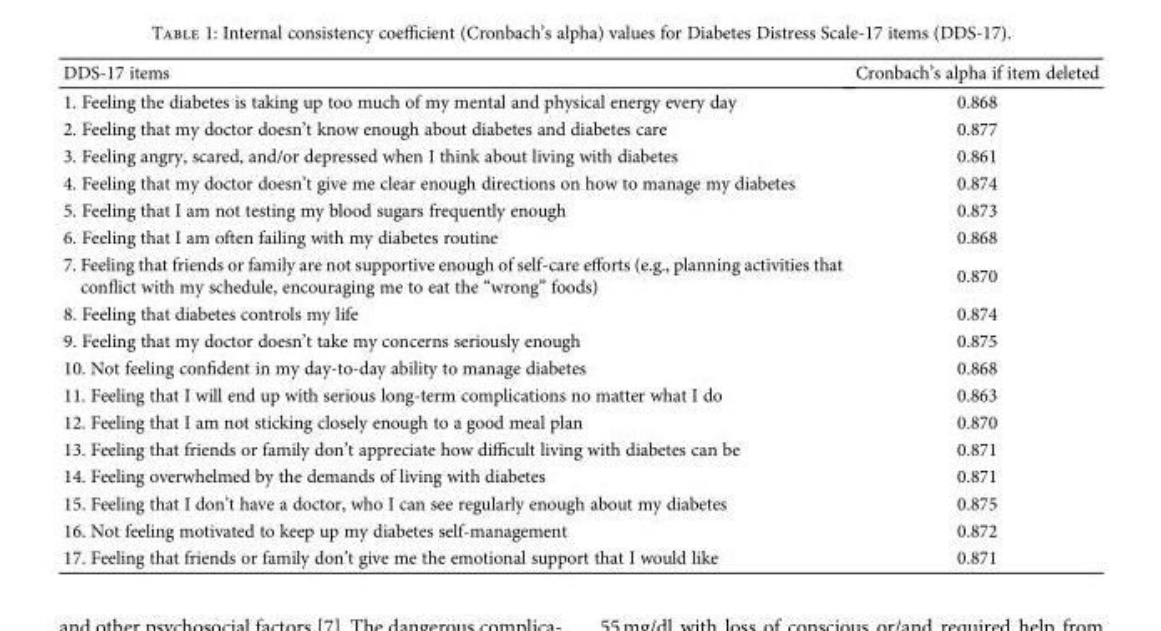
<table><thead><tr><td>DDS-17 items</td><td>Cronbach’s alpha if item deleted</td></tr></thead><tbody><tr><td>1. Feeling the diabetes is taking up too much of my mental and physical energy every day</td><td>0.868</td></tr><tr><td>2. Feeling that my doctor doesn’t know enough about diabetes and diabetes care</td><td>0.877</td></tr><tr><td>3. Feeling angry, scared, and/or depressed when I think about living with diabetes</td><td>0.861</td></tr><tr><td>4. Feeling that my doctor doesn’t give me clear enough directions on how to manage my diabetes</td><td>0.874</td></tr><tr><td>5. Feeling that I am not testing my blood sugars frequently enough</td><td>0.873</td></tr><tr><td>6. Feeling that I am often failing with my diabetes routine</td><td>0.868</td></tr><tr><td>7. Feeling that friends or family are not supportive enough of self-care efforts (e.g., planning activities that conflict with my schedule, encouraging me to eat the “wrong” foods)</td><td>0.870</td></tr><tr><td>8. Feeling that diabetes controls my life</td><td>0.874</td></tr><tr><td>9. Feeling that my doctor doesn’t take my concerns seriously enough</td><td>0.875</td></tr><tr><td>10. Not feeling confident in my day-to-day ability to manage diabetes</td><td>0.868</td></tr><tr><td>11. Feeling that I will end up with serious long-term complications no matter what I do</td><td>0.863</td></tr><tr><td>12. Feeling that I am not sticking closely enough to a good meal plan</td><td>0.870</td></tr><tr><td>13. Feeling that friends or family don’t appreciate how difficult living with diabetes can be</td><td>0.871</td></tr><tr><td>14. Feeling overwhelmed by the demands of living with diabetes</td><td>0.871</td></tr><tr><td>15. Feeling that I don’t have a doctor, who I can see regularly enough about my diabetes</td><td>0.875</td></tr><tr><td>16. Not feeling motivated to keep up my diabetes self-management</td><td>0.872</td></tr><tr><td>17. Feeling that friends or family don’t give me the emotional support that I would like</td><td>0.871</td></tr></tbody></table>